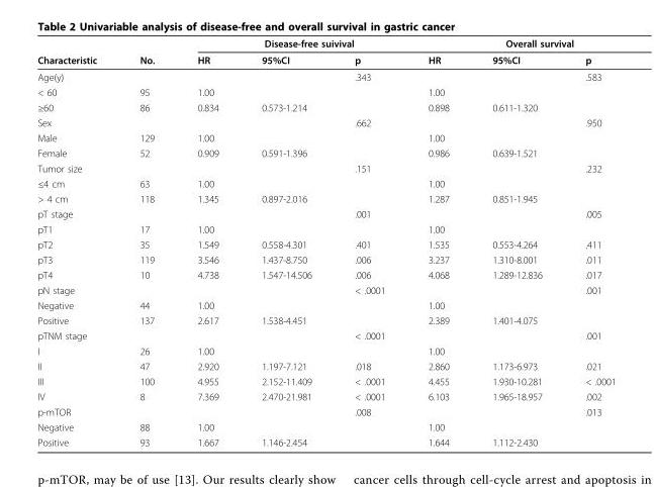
<table><thead><tr><td rowspan="2">Characteristic</td><td rowspan="2">No.</td><td colspan="3">Disease-free suivival</td><td colspan="3">Overall survival</td></tr><tr><td>HR</td><td>95%CI</td><td>p</td><td>HR</td><td>95%CI</td><td>p</td></tr></thead><tbody><tr><td>Age(y)</td><td></td><td></td><td></td><td>.343</td><td></td><td></td><td>.583</td></tr><tr><td>&lt; 60</td><td>95</td><td>1.00</td><td></td><td></td><td>1.00</td><td></td><td></td></tr><tr><td>≥60</td><td>86</td><td>0.834</td><td>0.573-1.214</td><td></td><td>0.898</td><td>0.611-1.320</td><td></td></tr><tr><td>Sex</td><td></td><td></td><td></td><td>.662</td><td></td><td></td><td>.950</td></tr><tr><td>Male</td><td>129</td><td>1.00</td><td></td><td></td><td>1.00</td><td></td><td></td></tr><tr><td>Female</td><td>52</td><td>0.909</td><td>0.591-1.396</td><td></td><td>0.986</td><td>0.639-1.521</td><td></td></tr><tr><td>Tumor size</td><td></td><td></td><td></td><td>.151</td><td></td><td></td><td>.232</td></tr><tr><td>≤4 cm</td><td>63</td><td>1.00</td><td></td><td></td><td>1.00</td><td></td><td></td></tr><tr><td>&gt; 4 cm</td><td>118</td><td>1.345</td><td>0.897-2.016</td><td></td><td>1.287</td><td>0.851-1.945</td><td></td></tr><tr><td>pT stage</td><td></td><td></td><td></td><td>.001</td><td></td><td></td><td>.005</td></tr><tr><td>pT1</td><td>17</td><td>1.00</td><td></td><td></td><td>1.00</td><td></td><td></td></tr><tr><td>pT2</td><td>35</td><td>1.549</td><td>0.558-4.301</td><td>.401</td><td>1.535</td><td>0.553-4.264</td><td>.411</td></tr><tr><td>pT3</td><td>119</td><td>3.546</td><td>1.437-8.750</td><td>.006</td><td>3.237</td><td>1.310-8.001</td><td>.011</td></tr><tr><td>pT4</td><td>10</td><td>4.738</td><td>1.547-14.506</td><td>.006</td><td>4.068</td><td>1.289-12.836</td><td>.017</td></tr><tr><td>pN stage</td><td></td><td></td><td></td><td>&lt; .0001</td><td></td><td></td><td>.001</td></tr><tr><td>Negative</td><td>44</td><td>1.00</td><td></td><td></td><td>1.00</td><td></td><td></td></tr><tr><td>Positive</td><td>137</td><td>2.617</td><td>1.538-4.451</td><td></td><td>2.389</td><td>1.401-4.075</td><td></td></tr><tr><td>pTNM stage</td><td></td><td></td><td></td><td>&lt; .0001</td><td></td><td></td><td>.001</td></tr><tr><td>I</td><td>26</td><td>1.00</td><td></td><td></td><td>1.00</td><td></td><td></td></tr><tr><td>II</td><td>47</td><td>2.920</td><td>1.197-7.121</td><td>.018</td><td>2.860</td><td>1.173-6.973</td><td>.021</td></tr><tr><td>III</td><td>100</td><td>4.955</td><td>2.152-11.409</td><td>&lt; .0001</td><td>4.455</td><td>1.930-10.281</td><td>&lt; .0001</td></tr><tr><td>IV</td><td>8</td><td>7.369</td><td>2.470-21.981</td><td>&lt; .0001</td><td>6.103</td><td>1.965-18.957</td><td>.002</td></tr><tr><td>p-mTOR</td><td></td><td></td><td></td><td>.008</td><td></td><td></td><td>.013</td></tr><tr><td>Negative</td><td>88</td><td>1.00</td><td></td><td></td><td>1.00</td><td></td><td></td></tr><tr><td>Positive</td><td>93</td><td>1.667</td><td>1.146-2.454</td><td></td><td>1.644</td><td>1.112-2.430</td><td></td></tr></tbody></table>